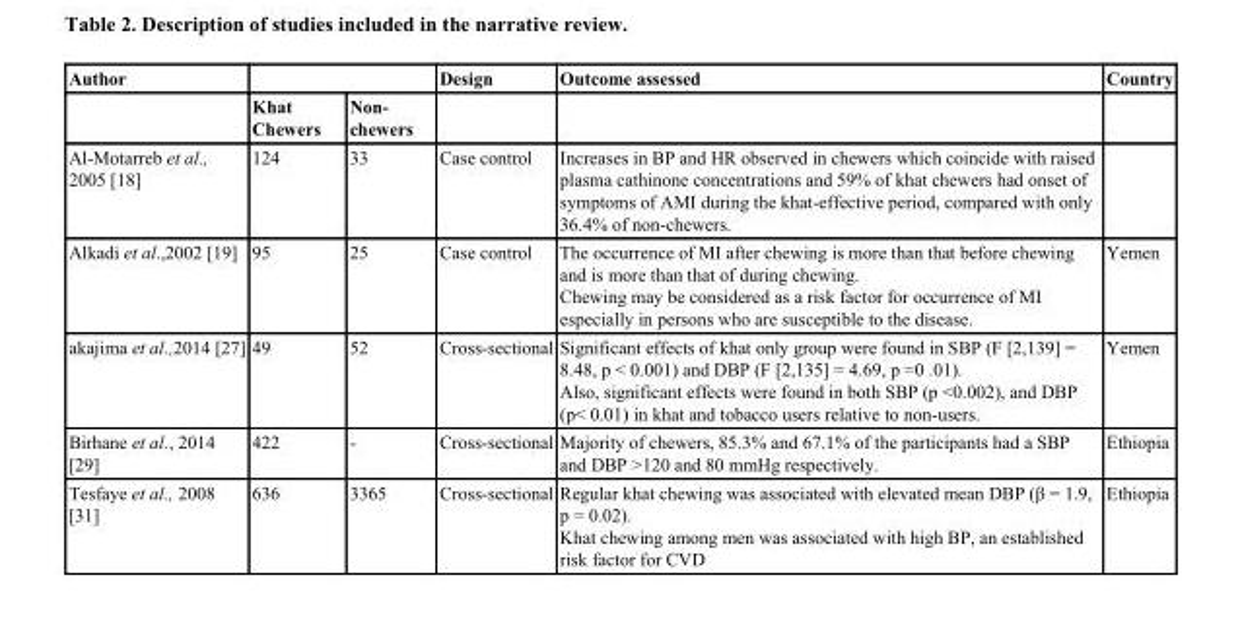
<table><thead><tr><td rowspan="2">Author</td><td rowspan="2">Khat Chewers</td><td rowspan="2">Non- chewers</td><td rowspan="2">Design</td><td rowspan="2">Outcome assessed</td><td rowspan="2">Country</td></tr><tr></tr></thead><tbody><tr><td>Al-Motarreb et al., 2005 [18]</td><td>124</td><td>33</td><td>Case control</td><td>Increases in BP and HR observed in chewers which coincide with raised plasma cathinone concentrations and 59% of khat chewers had onset of symptoms of AMI during the khat-effective period, compared with only 36.4% of non-chewers.</td><td></td></tr><tr><td>Alkadi et al.,2002 [19]</td><td>95</td><td>25</td><td>Case control</td><td>The occurrence of MI after chewing is more than that before chewing and is more than that of during chewing. Chewing may be considered as a risk factor for occurrence of MI especially in persons who are susceptible to the disease.</td><td>Yemen</td></tr><tr><td>akajima et al.,2014 [27]</td><td>49</td><td>52</td><td>Cross-sectional</td><td>Significant effects of khat only group were found in SBP (F [2,139] = 8.48, p &lt; 0.001) and DBP (F [2,135] = 4.69, p =0 .01). Also, significant effects were found in both SBP (p &lt;0.002), and DBP (p&lt; 0.01) in khat and tobacco users relative to non-users.</td><td>Yemen</td></tr><tr><td>Birhane et al., 2014 [29]</td><td>422</td><td>-</td><td>Cross-sectional</td><td>Majority of chewers, 85.3% and 67.1% of the participants had a SBP and DBP &gt;120 and 80 mmHg respectively.</td><td>Ethiopia</td></tr><tr><td>Tesfaye et al., 2008 [31]</td><td>636</td><td>3365</td><td>Cross-sectional</td><td>Regular khat chewing was associated with elevated mean DBP (β = 1.9, p = 0.02). Khat chewing among men was associated with high BP, an established risk factor for CVD</td><td>Ethiopia</td></tr></tbody></table>